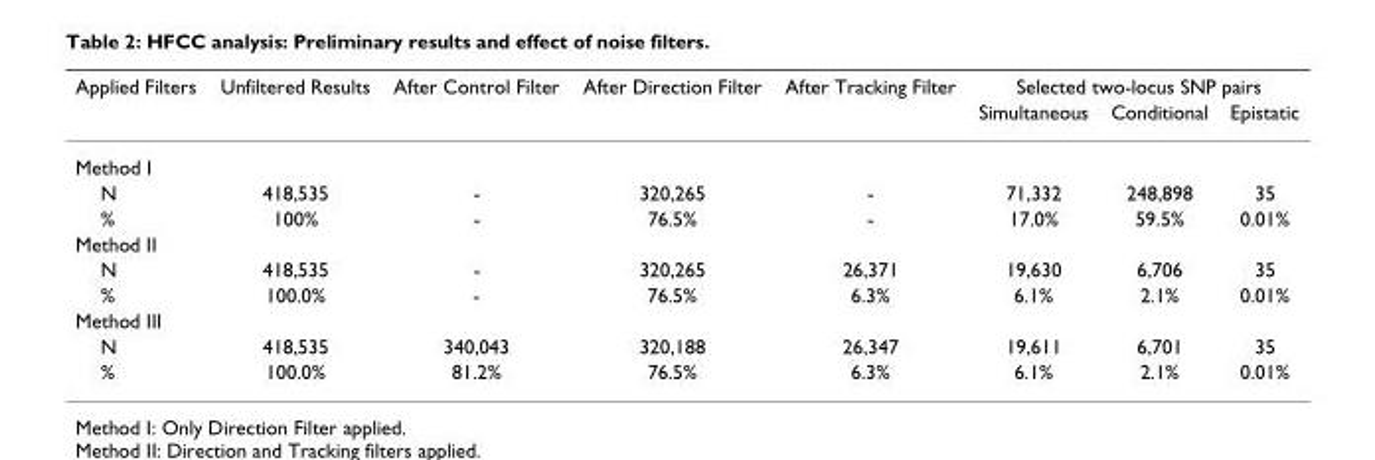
<table><thead><tr><td rowspan="2">Applied Filters</td><td rowspan="2">Unfiltered Results</td><td rowspan="2">After Control Filter</td><td rowspan="2">After Direction Filter</td><td rowspan="2">After Tracking Filter</td><td colspan="3">Selected two-locus SNP pairs</td></tr><tr><td>Simultaneous</td><td>Conditional</td><td>Epistatic</td></tr></thead><tbody><tr><td colspan="8">Method I</td></tr><tr><td>N</td><td>418,535</td><td>-</td><td>320,265</td><td>-</td><td>71,332</td><td>248,898</td><td>35</td></tr><tr><td>%</td><td>100%</td><td>-</td><td>76.5%</td><td>-</td><td>17.0%</td><td>59.5%</td><td>0.01%</td></tr><tr><td colspan="8">Method II</td></tr><tr><td>N</td><td>418,535</td><td>-</td><td>320,265</td><td>26,371</td><td>19,630</td><td>6,706</td><td>35</td></tr><tr><td>%</td><td>100.0%</td><td>-</td><td>76.5%</td><td>6.3%</td><td>6.1%</td><td>2.1%</td><td>0.01%</td></tr><tr><td colspan="8">Method III</td></tr><tr><td>N</td><td>418,535</td><td>340,043</td><td>320,188</td><td>26,347</td><td>19,611</td><td>6,701</td><td>35</td></tr><tr><td>%</td><td>100.0%</td><td>81.2%</td><td>76.5%</td><td>6.3%</td><td>6.1%</td><td>2.1%</td><td>0.01%</td></tr></tbody></table>